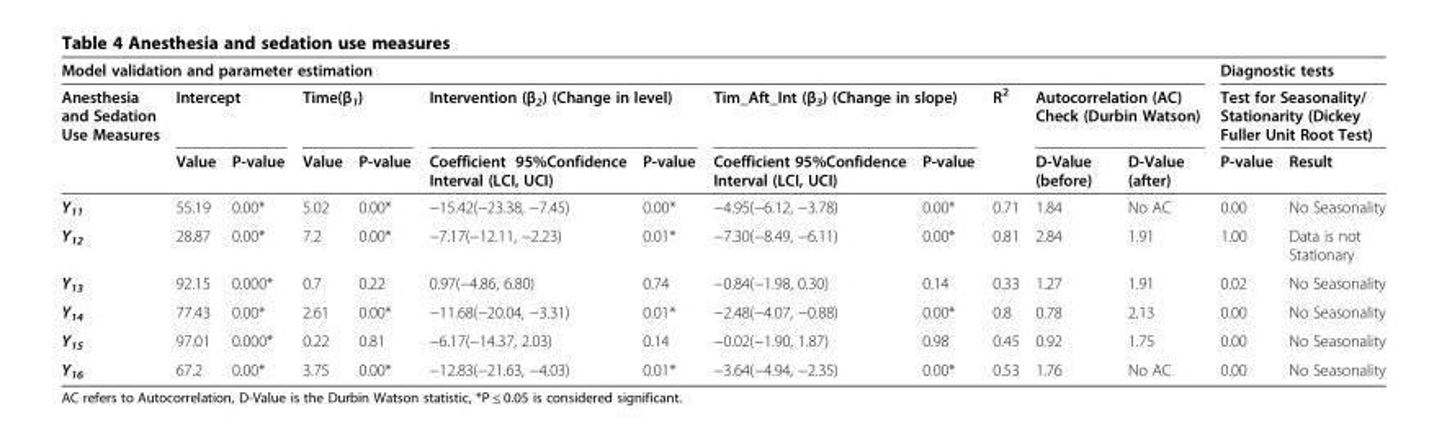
<table><thead><tr><td colspan="12">Model validation and parameter estimation</td><td rowspan="2" colspan="2">Diagnostic tests Test for Seasonality/ Stationarity (Dickey Fuller Unit Root Test)</td></tr><tr><td rowspan="2">Anesthesia and Sedation Use Measures</td><td colspan="2">Intercept</td><td colspan="2">Time(β<sub>1</sub>)</td><td colspan="2">Intervention (β<sub>2</sub>) (Change in level)</td><td colspan="2">Tim_Aft_Int (β<sub>3</sub>) (Change in slope)</td><td rowspan="2">R<sup>2</sup></td><td colspan="2">Autocorrelation (AC) Check (Durbin Watson)</td></tr><tr><td>Value</td><td>P-value</td><td>Value</td><td>P-value</td><td>Coefficient 95%Confidence Interval (LCI, UCI)</td><td>P-value</td><td>Coefficient 95%Confidence Interval (LCI, UCI)</td><td>P-value</td><td>D-Value (before)</td><td>D-Value (after)</td><td>P-value</td><td>Result</td></tr></thead><tbody><tr><td>Y<sub>11</sub></td><td>55.19</td><td>0.00*</td><td>5.02</td><td>0.00*</td><td>−15.42(−23.38, −7.45)</td><td>0.00*</td><td>−4.95(−6.12, −3.78)</td><td>0.00*</td><td>0.71</td><td>1.84</td><td>No AC</td><td>0.00</td><td>No Seasonality</td></tr><tr><td>Y<sub>12</sub></td><td>28.87</td><td>0.00*</td><td>7.2</td><td>0.00*</td><td>−7.17(−12.11, −2.23)</td><td>0.01*</td><td>−7.30(−8.49, −6.11)</td><td>0.00*</td><td>0.81</td><td>2.84</td><td>1.91</td><td>1.00</td><td>Data is not Stationary</td></tr><tr><td>Y<sub>13</sub></td><td>92.15</td><td>0.000*</td><td>0.7</td><td>0.22</td><td>0.97(−4.86, 6.80)</td><td>0.74</td><td>−0.84(−1.98, 0.30)</td><td>0.14</td><td>0.33</td><td>1.27</td><td>1.91</td><td>0.02</td><td>No Seasonality</td></tr><tr><td>Y<sub>14</sub></td><td>77.43</td><td>0.00*</td><td>2.61</td><td>0.00*</td><td>−11.68(−20.04, −3.31)</td><td>0.01*</td><td>−2.48(−4.07, −0.88)</td><td>0.00*</td><td>0.8</td><td>0.78</td><td>2.13</td><td>0.00</td><td>No Seasonality</td></tr><tr><td>Y<sub>15</sub></td><td>97.01</td><td>0.000*</td><td>0.22</td><td>0.81</td><td>−6.17(−14.37, 2.03)</td><td>0.14</td><td>−0.02(−1.90, 1.87)</td><td>0.98</td><td>0.45</td><td>0.92</td><td>1.75</td><td>0.00</td><td>No Seasonality</td></tr><tr><td>Y<sub>16</sub></td><td>67.2</td><td>0.00*</td><td>3.75</td><td>0.00*</td><td>−12.83(−21.63, −4.03)</td><td>0.01*</td><td>−3.64(−4.94, −2.35)</td><td>0.00*</td><td>0.53</td><td>1.76</td><td>No AC</td><td>0.00</td><td>No Seasonality</td></tr></tbody></table>